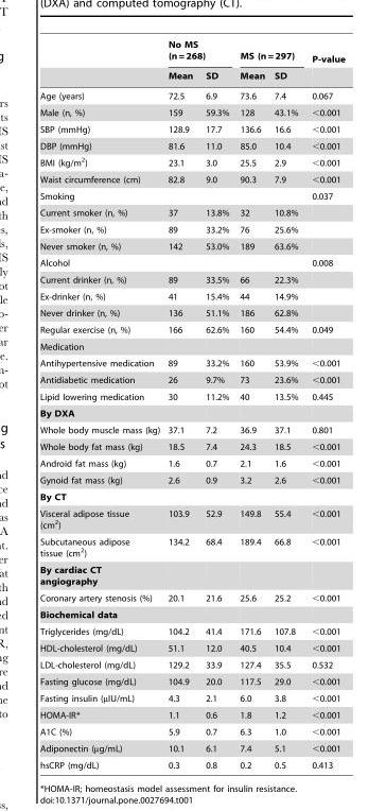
<table><thead><tr><td rowspan="2"></td><td colspan="2">No MS (n = 268)</td><td colspan="2">MS (n = 297)</td><td rowspan="2">P-value</td></tr><tr><td>Mean</td><td>SD</td><td>Mean</td><td>SD</td></tr></thead><tbody><tr><td>Age (years)</td><td>72.5</td><td>6.9</td><td>73.6</td><td>7.4</td><td>0.067</td></tr><tr><td>Male (n, %)</td><td>159</td><td>59.3%</td><td>128</td><td>43.1%</td><td>&lt;0.001</td></tr><tr><td>SBP (mmHg)</td><td>128.9</td><td>17.7</td><td>136.6</td><td>16.6</td><td>&lt;0.001</td></tr><tr><td>DBP (mmHg)</td><td>81.6</td><td>11.0</td><td>85.0</td><td>10.4</td><td>&lt;0.001</td></tr><tr><td>BMI (kg/m<sup>2</sup>)</td><td>23.1</td><td>3.0</td><td>25.5</td><td>2.9</td><td>&lt;0.001</td></tr><tr><td>Waist circumference (cm)</td><td>82.8</td><td>9.0</td><td>90.3</td><td>7.9</td><td>&lt;0.001</td></tr><tr><td>Smoking</td><td></td><td></td><td></td><td></td><td>0.037</td></tr><tr><td>Current smoker (n, %)</td><td>37</td><td>13.8%</td><td>32</td><td>10.8%</td><td></td></tr><tr><td>Ex-smoker (n, %)</td><td>89</td><td>33.2%</td><td>76</td><td>25.6%</td><td></td></tr><tr><td>Never smoker (n, %)</td><td>142</td><td>53.0%</td><td>189</td><td>63.6%</td><td></td></tr><tr><td>Alcohol</td><td></td><td></td><td></td><td></td><td>0.008</td></tr><tr><td>Current drinker (n, %)</td><td>89</td><td>33.5%</td><td>66</td><td>22.3%</td><td></td></tr><tr><td>Ex-drinker (n, %)</td><td>41</td><td>15.4%</td><td>44</td><td>14.9%</td><td></td></tr><tr><td>Never drinker (n, %)</td><td>136</td><td>51.1%</td><td>186</td><td>62.8%</td><td></td></tr><tr><td>Regular exercise (n, %)</td><td>166</td><td>62.6%</td><td>160</td><td>54.4%</td><td>0.049</td></tr><tr><td colspan="6">Medication</td></tr><tr><td>Antihypertensive medication</td><td>89</td><td>33.2%</td><td>160</td><td>53.9%</td><td>&lt;0.001</td></tr><tr><td>Antidiabetic medication</td><td>26</td><td>9.7%</td><td>73</td><td>23.6%</td><td>&lt;0.001</td></tr><tr><td>Lipid lowering medication</td><td>30</td><td>11.2%</td><td>40</td><td>13.5%</td><td>0.445</td></tr><tr><td colspan="6">By DXA</td></tr><tr><td>Whole body muscle mass (kg)</td><td>37.1</td><td>7.2</td><td>36.9</td><td>37.1</td><td>0.801</td></tr><tr><td>Whole body fat mass (kg)</td><td>18.5</td><td>7.4</td><td>24.3</td><td>18.5</td><td>&lt;0.001</td></tr><tr><td>Android fat mass (kg)</td><td>1.6</td><td>0.7</td><td>2.1</td><td>1.6</td><td>&lt;0.001</td></tr><tr><td>Gynoid fat mass (kg)</td><td>2.6</td><td>0.9</td><td>3.2</td><td>2.6</td><td>&lt;0.001</td></tr><tr><td colspan="6">By CT</td></tr><tr><td>Visceral adipose tissue (cm<sup>2</sup>)</td><td>103.9</td><td>52.9</td><td>149.8</td><td>55.4</td><td>&lt;0.001</td></tr><tr><td>Subcutaneous adipose tissue (cm<sup>2</sup>)</td><td>134.2</td><td>68.4</td><td>189.4</td><td>66.8</td><td>&lt;0.001</td></tr><tr><td colspan="6">By cardiac CT angiography</td></tr><tr><td>Coronary artery stenosis (%)</td><td>20.1</td><td>21.6</td><td>25.6</td><td>25.2</td><td>&lt;0.001</td></tr><tr><td colspan="6">Biochemical data</td></tr><tr><td>Triglycerides (mg/dL)</td><td>104.2</td><td>41.4</td><td>171.6</td><td>107.8</td><td>&lt;0.001</td></tr><tr><td>HDL-cholesterol (mg/dL)</td><td>51.1</td><td>12.0</td><td>40.5</td><td>10.4</td><td>&lt;0.001</td></tr><tr><td>LDL-cholesterol (mg/dL)</td><td>129.2</td><td>33.9</td><td>127.4</td><td>35.5</td><td>0.532</td></tr><tr><td>Fasting glucose (mg/dL)</td><td>104.9</td><td>20.0</td><td>117.5</td><td>29.0</td><td>&lt;0.001</td></tr><tr><td>Fasting insulin (µIU/mL)</td><td>4.3</td><td>2.1</td><td>6.0</td><td>3.8</td><td>&lt;0.001</td></tr><tr><td>HOMA-IR*</td><td>1.1</td><td>0.6</td><td>1.8</td><td>1.2</td><td>&lt;0.001</td></tr><tr><td>A1C (%)</td><td>5.9</td><td>0.7</td><td>6.3</td><td>1.0</td><td>&lt;0.001</td></tr><tr><td>Adiponectin (µg/mL)</td><td>10.1</td><td>6.1</td><td>7.4</td><td>5.1</td><td>&lt;0.001</td></tr><tr><td>hsCRP (mg/dL)</td><td>0.3</td><td>0.8</td><td>0.2</td><td>0.5</td><td>0.413</td></tr></tbody></table>